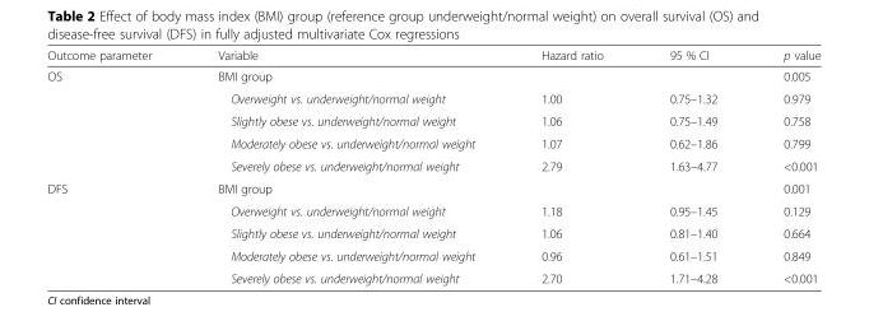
<table><thead><tr><td>Outcome parameter</td><td>Variable</td><td>Hazard ratio</td><td>95 % CI</td><td>p value</td></tr></thead><tbody><tr><td rowspan="5">OS</td><td>BMI group</td><td></td><td></td><td>0.005</td></tr><tr><td>Overweight vs. underweight/normal weight</td><td>1.00</td><td>0.75–1.32</td><td>0.979</td></tr><tr><td>Slightly obese vs. underweight/normal weight</td><td>1.06</td><td>0.75–1.49</td><td>0.758</td></tr><tr><td>Moderately obese vs. underweight/normal weight</td><td>1.07</td><td>0.62–1.86</td><td>0.799</td></tr><tr><td>Severely obese vs. underweight/normal weight</td><td>2.79</td><td>1.63–4.77</td><td>&lt;0.001</td></tr><tr><td rowspan="5">DFS</td><td>BMI group</td><td></td><td></td><td>0.001</td></tr><tr><td>Overweight vs. underweight/normal weight</td><td>1.18</td><td>0.95–1.45</td><td>0.129</td></tr><tr><td>Slightly obese vs. underweight/normal weight</td><td>1.06</td><td>0.81–1.40</td><td>0.664</td></tr><tr><td>Moderately obese vs. underweight/normal weight</td><td>0.96</td><td>0.61–1.51</td><td>0.849</td></tr><tr><td>Severely obese vs. underweight/normal weight</td><td>2.70</td><td>1.71–4.28</td><td>&lt;0.001</td></tr></tbody></table>